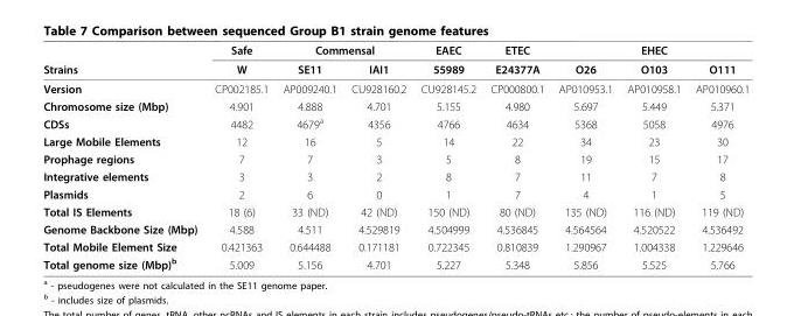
<table><thead><tr><td rowspan="2">Strains</td><td rowspan="2">Safe W</td><td colspan="2">Commensal</td><td rowspan="2">EAEC 55989</td><td rowspan="2">ETEC E24377A</td><td colspan="3">EHEC</td></tr><tr><td>SE11</td><td>IAI1</td><td>O26</td><td>O103</td><td>O111</td></tr></thead><tbody><tr><td>Version</td><td>CP002185.1</td><td>AP009240.1</td><td>CU928160.2</td><td>CU928145.2</td><td>CP000800.1</td><td>AP010953.1</td><td>AP010958.1</td><td>AP010960.1</td></tr><tr><td>Chromosome size (Mbp)</td><td>4.901</td><td>4.888</td><td>4.701</td><td>5.155</td><td>4.980</td><td>5.697</td><td>5.449</td><td>5.371</td></tr><tr><td>CDSs</td><td>4482</td><td>4679<sup>a</sup></td><td>4356</td><td>4766</td><td>4634</td><td>5368</td><td>5058</td><td>4976</td></tr><tr><td>Large Mobile Elements</td><td>12</td><td>16</td><td>5</td><td>14</td><td>22</td><td>34</td><td>23</td><td>30</td></tr><tr><td>Prophage regions</td><td>7</td><td>7</td><td>3</td><td>5</td><td>8</td><td>19</td><td>15</td><td>17</td></tr><tr><td>Integrative elements</td><td>3</td><td>3</td><td>2</td><td>8</td><td>7</td><td>11</td><td>7</td><td>8</td></tr><tr><td>Plasmids</td><td>2</td><td>6</td><td>0</td><td>1</td><td>7</td><td>4</td><td>1</td><td>5</td></tr><tr><td>Total IS Elements</td><td>18 (6)</td><td>33 (ND)</td><td>42 (ND)</td><td>150 (ND)</td><td>80 (ND)</td><td>135 (ND)</td><td>116 (ND)</td><td>119 (ND)</td></tr><tr><td>Genome Backbone Size (Mbp)</td><td>4.588</td><td>4.511</td><td>4.529819</td><td>4.504999</td><td>4.536845</td><td>4.564564</td><td>4.520522</td><td>4.536492</td></tr><tr><td>Total Mobile Element Size</td><td>0.421363</td><td>0.644488</td><td>0.171181</td><td>0.722345</td><td>0.810839</td><td>1.290967</td><td>1.004338</td><td>1.229646</td></tr><tr><td>Total genome size (Mbp)<sup>b</sup></td><td>5.009</td><td>5.156</td><td>4.701</td><td>5.227</td><td>5.348</td><td>5.856</td><td>5.525</td><td>5.766</td></tr></tbody></table>